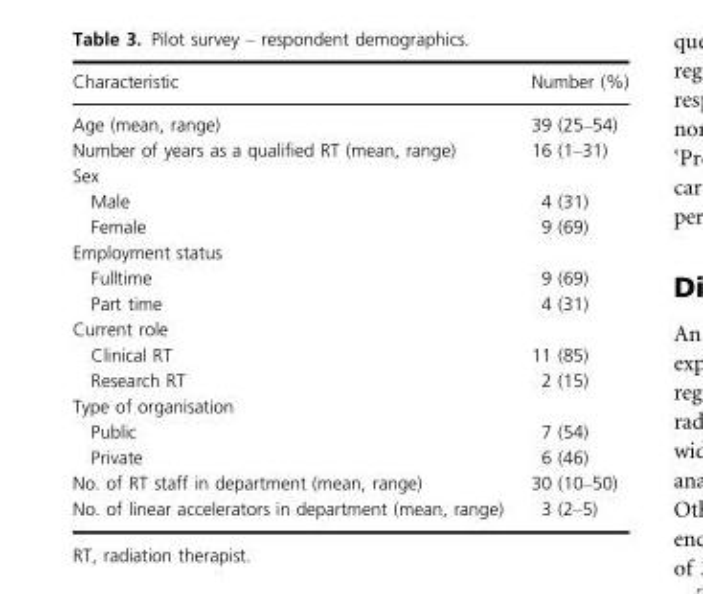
<table><thead><tr><td>Characteristic</td><td>Number (%)</td></tr></thead><tbody><tr><td>Age (mean, range)</td><td>39 (25–54)</td></tr><tr><td>Number of years as a qualified RT (mean, range)</td><td>16 (1–31)</td></tr><tr><td colspan="2">Sex</td></tr><tr><td>Male</td><td>4 (31)</td></tr><tr><td>Female</td><td>9 (69)</td></tr><tr><td colspan="2">Employment status</td></tr><tr><td>Fulltime</td><td>9 (69)</td></tr><tr><td>Part time</td><td>4 (31)</td></tr><tr><td colspan="2">Current role</td></tr><tr><td>Clinical RT</td><td>11 (85)</td></tr><tr><td>Research RT</td><td>2 (15)</td></tr><tr><td colspan="2">Type of organisation</td></tr><tr><td>Public</td><td>7 (54)</td></tr><tr><td>Private</td><td>6 (46)</td></tr><tr><td>No. of RT staff in department (mean, range)</td><td>30 (10–50)</td></tr><tr><td>No. of linear accelerators in department (mean, range)</td><td>3 (2–5)</td></tr></tbody></table>